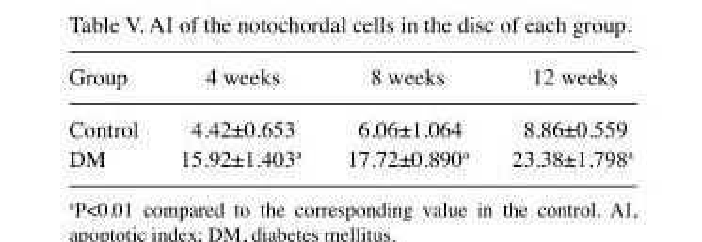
<table><thead><tr><td>Group</td><td>4 weeks</td><td>8 weeks</td><td>12 weeks</td></tr></thead><tbody><tr><td>Control</td><td>4.42±0.653</td><td>6.06±1.064</td><td>8.86±0.559</td></tr><tr><td>DM</td><td>15.92±1.403a</td><td>17.72±0.890a</td><td>23.38±1.798a</td></tr></tbody></table>